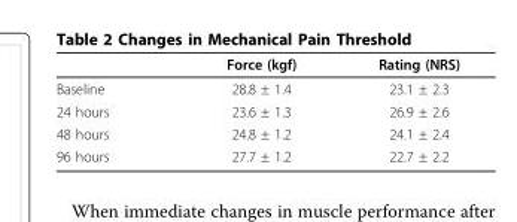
<table><thead><tr><td></td><td>Force (kgf)</td><td>Rating (NRS)</td></tr></thead><tbody><tr><td>Baseline</td><td>28.8 ± 1.4</td><td>23.1 ± 2.3</td></tr><tr><td>24 hours</td><td>23.6 ± 1.3</td><td>26.9 ± 2.6</td></tr><tr><td>48 hours</td><td>24.8 ± 1.2</td><td>24.1 ± 2.4</td></tr><tr><td>96 hours</td><td>27.7 ± 1.2</td><td>22.7 ± 2.2</td></tr></tbody></table>